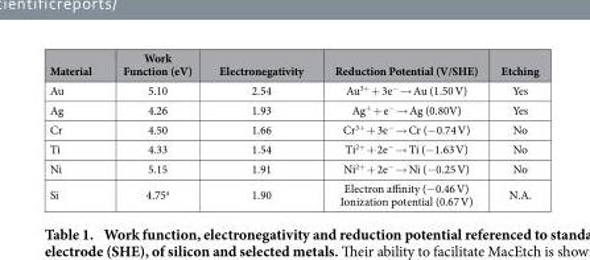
<table><thead><tr><td>Material</td><td>Work Function (eV)</td><td>Electronegativity</td><td>Reduction Potential (V/SHE)</td><td>Etching</td></tr></thead><tbody><tr><td>Au</td><td>5.10</td><td>2.54</td><td>Au<sup>3+</sup> + 3e<sup>−</sup> → Au (1.50 V)</td><td>Yes</td></tr><tr><td>Ag</td><td>4.26</td><td>1.93</td><td>Ag<sup>+</sup> + e<sup>−</sup> → Ag (0.80V)</td><td>Yes</td></tr><tr><td>Cr</td><td>4.50</td><td>1.66</td><td>Cr<sup>3+</sup> + 3e<sup>−</sup> → Cr (− 0.74 V)</td><td>No</td></tr><tr><td>Ti</td><td>4.33</td><td>1.54</td><td>Ti<sup>2+</sup> + 2e<sup>−</sup> → Ti (− 1.63 V)</td><td>No</td></tr><tr><td>Ni</td><td>5.15</td><td>1.91</td><td>Ni<sup>2+</sup> + 2e<sup>−</sup> → Ni (− 0.25 V)</td><td>No</td></tr><tr><td>Si</td><td>4.75<sup>a</sup></td><td>1.90</td><td>Electron affinity (− 0.46 V) Ionization potential (0.67 V)</td><td>N.A.</td></tr></tbody></table>